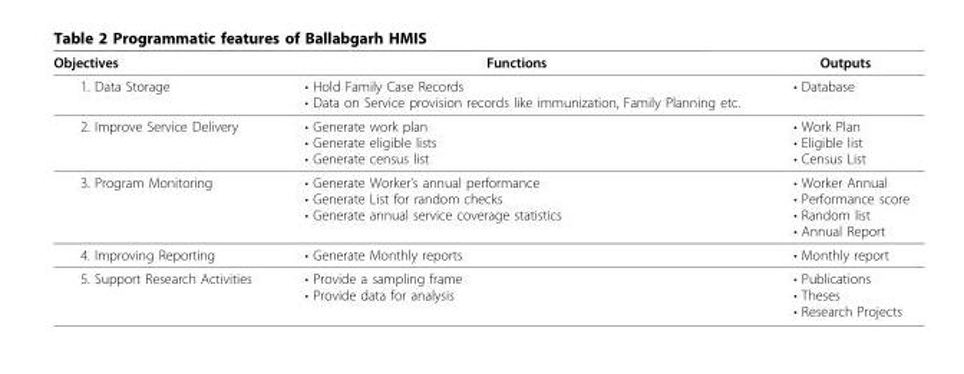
<table><thead><tr><td>Objectives</td><td>Functions</td><td>Outputs</td></tr></thead><tbody><tr><td>1. Data Storage</td><td>• Hold Family Case Records • Data on Service provision records like immunization, Family Planning etc.</td><td>• Database</td></tr><tr><td>2. Improve Service Delivery</td><td>• Generate work plan • Generate eligible lists • Generate census list</td><td>• Work Plan • Eligible list • Census List</td></tr><tr><td>3. Program Monitoring</td><td>• Generate Worker’s annual performance • Generate List for random checks • Generate annual service coverage statistics</td><td>• Worker Annual • Performance score • Random list • Annual Report</td></tr><tr><td>4. Improving Reporting</td><td>• Generate Monthly reports</td><td>• Monthly report</td></tr><tr><td>5. Support Research Activities</td><td>• Provide a sampling frame • Provide data for analysis</td><td>• Publications • Theses • Research Projects</td></tr></tbody></table>